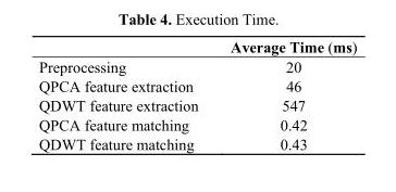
<table><thead><tr><td></td><td>Average Time (ms)</td></tr></thead><tbody><tr><td>Preprocessing</td><td>20</td></tr><tr><td>QPCA feature extraction</td><td>46</td></tr><tr><td>QDWT feature extraction</td><td>547</td></tr><tr><td>QPCA feature matching</td><td>0.42</td></tr><tr><td>QDWT feature matching</td><td>0.43</td></tr></tbody></table>